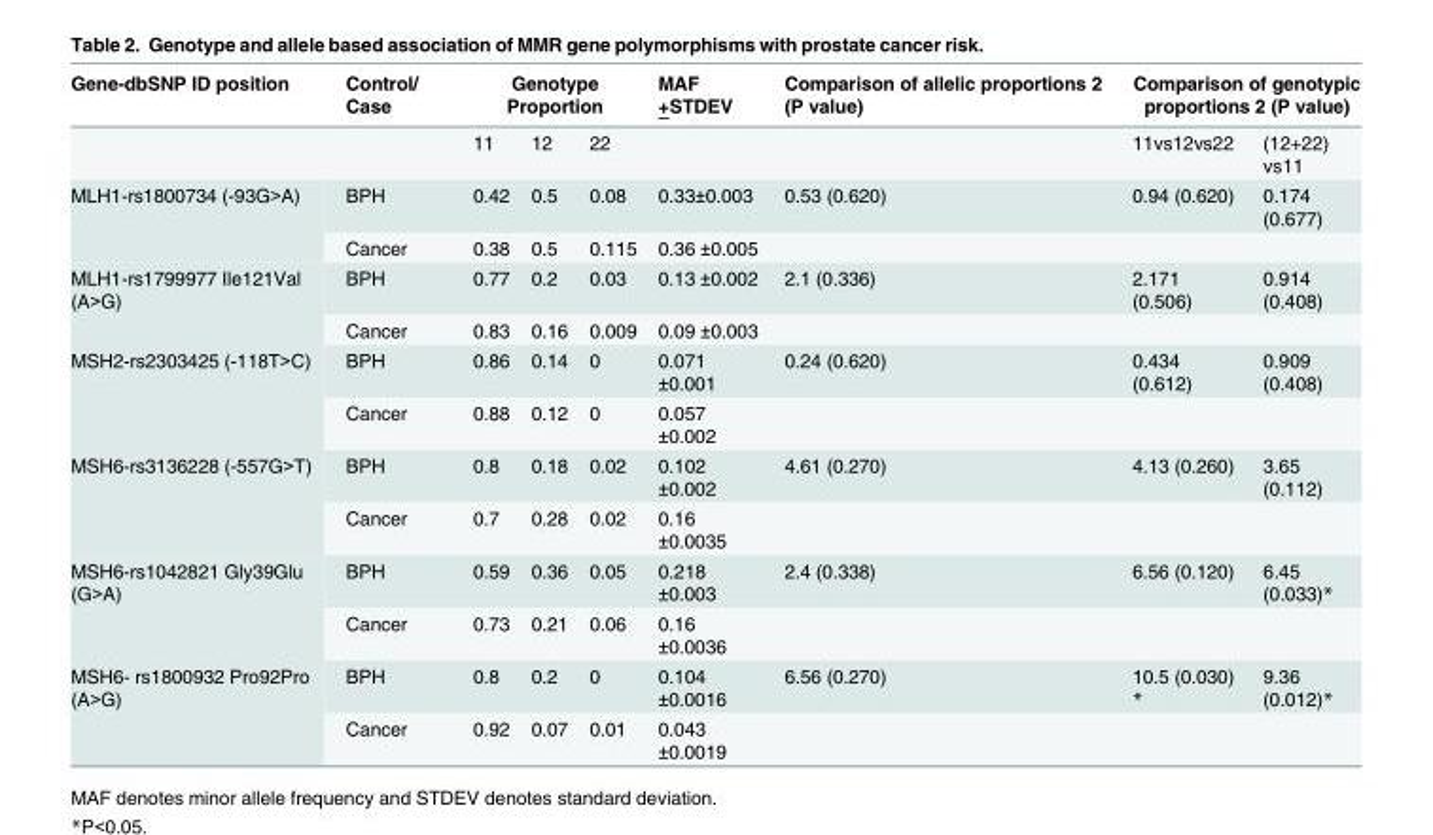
<table><thead><tr><td rowspan="2">Gene-dbSNP ID position</td><td rowspan="2">Control/ Case</td><td colspan="3">Genotype Proportion</td><td rowspan="2">MAF +STDEV</td><td rowspan="2">Comparison of allelic proportions 2 (P value)</td><td colspan="2">Comparison of genotypic proportions 2 (P value)</td></tr><tr><td>11</td><td>12</td><td>22</td><td>11vs12vs22</td><td>(12+22) vs11</td></tr></thead><tbody><tr><td rowspan="2">MLH1-rs1800734 (-93G&gt;A)</td><td>BPH</td><td>0.42</td><td>0.5</td><td>0.08</td><td>0.33±0.003</td><td>0.53 (0.620)</td><td>0.94 (0.620)</td><td>0.174 (0.677)</td></tr><tr><td>Cancer</td><td>0.38</td><td>0.5</td><td>0.115</td><td>0.36 ±0.005</td><td></td><td></td><td></td></tr><tr><td rowspan="2">MLH1-rs1799977 Ile121Val (A&gt;G)</td><td>BPH</td><td>0.77</td><td>0.2</td><td>0.03</td><td>0.13 ±0.002</td><td>2.1 (0.336)</td><td>2.171 (0.506)</td><td>0.914 (0.408)</td></tr><tr><td>Cancer</td><td>0.83</td><td>0.16</td><td>0.009</td><td>0.09 ±0.003</td><td></td><td></td><td></td></tr><tr><td rowspan="2">MSH2-rs2303425 (-118T&gt;C)</td><td>BPH</td><td>0.86</td><td>0.14</td><td>0</td><td>0.071 ±0.001</td><td>0.24 (0.620)</td><td>0.434 (0.612)</td><td>0.909 (0.408)</td></tr><tr><td>Cancer</td><td>0.88</td><td>0.12</td><td>0</td><td>0.057 ±0.002</td><td></td><td></td><td></td></tr><tr><td rowspan="2">MSH6-rs3136228 (-557G&gt;T)</td><td>BPH</td><td>0.8</td><td>0.18</td><td>0.02</td><td>0.102 ±0.002</td><td>4.61 (0.270)</td><td>4.13 (0.260)</td><td>3.65 (0.112)</td></tr><tr><td>Cancer</td><td>0.7</td><td>0.28</td><td>0.02</td><td>0.16 ±0.0035</td><td></td><td></td><td></td></tr><tr><td rowspan="2">MSH6-rs1042821 Gly39Glu (G&gt;A)</td><td>BPH</td><td>0.59</td><td>0.36</td><td>0.05</td><td>0.218 ±0.003</td><td>2.4 (0.338)</td><td>6.56 (0.120)</td><td>6.45 (0.033)*</td></tr><tr><td>Cancer</td><td>0.73</td><td>0.21</td><td>0.06</td><td>0.16 ±0.0036</td><td></td><td></td><td></td></tr><tr><td rowspan="2">MSH6- rs1800932 Pro92Pro (A&gt;G)</td><td>BPH</td><td>0.8</td><td>0.2</td><td>0</td><td>0.104 ±0.0016</td><td>6.56 (0.270)</td><td>10.5 (0.030) *</td><td>9.36 (0.012)*</td></tr><tr><td>Cancer</td><td>0.92</td><td>0.07</td><td>0.01</td><td>0.043 ±0.0019</td><td></td><td></td><td></td></tr></tbody></table>